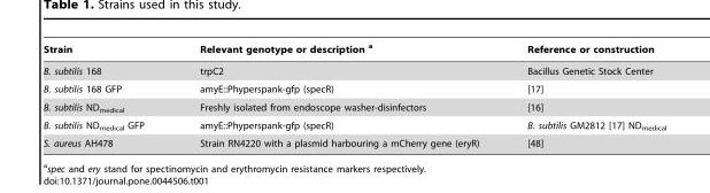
<table><thead><tr><td>Strain</td><td>Relevant genotype or description a</td><td>Reference or construction</td></tr></thead><tbody><tr><td>B. subtilis 168</td><td>trpC2</td><td>Bacillus Genetic Stock Center</td></tr><tr><td>B. subtilis 168 GFP</td><td>amyE::Phyperspank-gfp (specR)</td><td>[17]</td></tr><tr><td>B. subtilis ND<sub>medical</sub></td><td>Freshly isolated from endoscope washer-disinfectors</td><td>[16]</td></tr><tr><td>B. subtilis ND<sub>medical</sub> GFP</td><td>amyE::Phyperspank-gfp (specR)</td><td>B. subtilis GM2812 [17] ND<sub>medical</sub></td></tr><tr><td>S. aureus AH478</td><td>Strain RN4220 with a plasmid harbouring a mCherry gene (eryR)</td><td>[48]</td></tr></tbody></table>